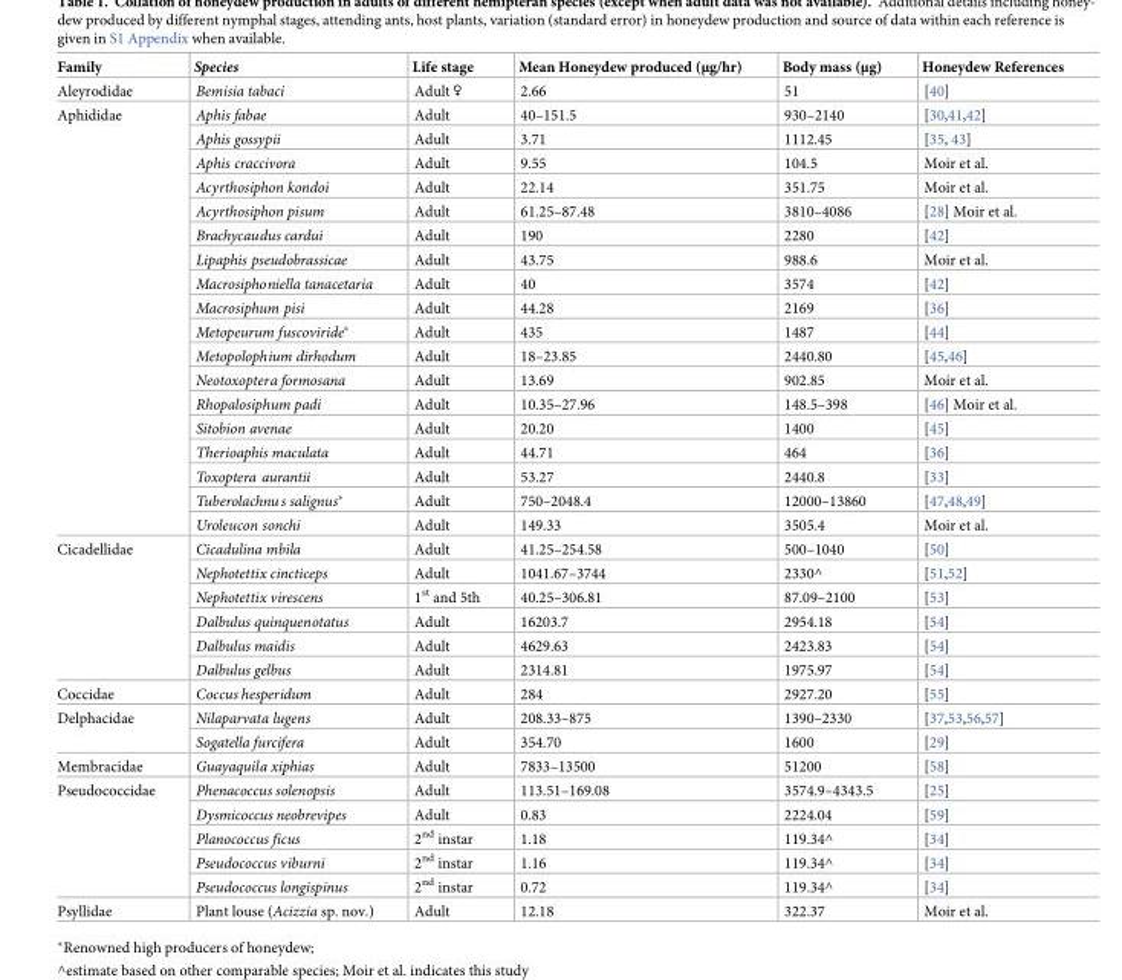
<table><thead><tr><td>Family</td><td>Species</td><td>Life stage</td><td>Mean Honeydew produced (μg/hr)</td><td>Body mass (μg)</td><td>Honeydew References</td></tr></thead><tbody><tr><td>Aleyrodidae</td><td>Bemisia tabaci</td><td>Adult ♀</td><td>2.66</td><td>51</td><td>[40]</td></tr><tr><td rowspan="18">Aphididae</td><td>Aphis fabae</td><td>Adult</td><td>40–151.5</td><td>930–2140</td><td>[30,41,42]</td></tr><tr><td>Aphis gossypii</td><td>Adult</td><td>3.71</td><td>1112.45</td><td>[35, 43]</td></tr><tr><td>Aphis craccivora</td><td>Adult</td><td>9.55</td><td>104.5</td><td>Moir et al.</td></tr><tr><td>Acyrthosiphon kondoi</td><td>Adult</td><td>22.14</td><td>351.75</td><td>Moir et al.</td></tr><tr><td>Acyrthosiphon pisum</td><td>Adult</td><td>61.25–87.48</td><td>3810–4086</td><td>[28] Moir et al.</td></tr><tr><td>Brachycaudus cardui</td><td>Adult</td><td>190</td><td>2280</td><td>[42]</td></tr><tr><td>Lipaphis pseudobrassicae</td><td>Adult</td><td>43.75</td><td>988.6</td><td>Moir et al.</td></tr><tr><td>Macrosiphoniella tanacetaria</td><td>Adult</td><td>40</td><td>3574</td><td>[42]</td></tr><tr><td>Macrosiphum pisi</td><td>Adult</td><td>44.28</td><td>2169</td><td>[36]</td></tr><tr><td>Metopeurum fuscoviride*</td><td>Adult</td><td>435</td><td>1487</td><td>[44]</td></tr><tr><td>Metopolophium dirhodum</td><td>Adult</td><td>18–23.85</td><td>2440.80</td><td>[45,46]</td></tr><tr><td>Neotoxoptera formosana</td><td>Adult</td><td>13.69</td><td>902.85</td><td>Moir et al.</td></tr><tr><td>Rhopalosiphum padi</td><td>Adult</td><td>10.35–27.96</td><td>148.5–398</td><td>[46] Moir et al.</td></tr><tr><td>Sitobion avenae</td><td>Adult</td><td>20.20</td><td>1400</td><td>[45]</td></tr><tr><td>Therioaphis maculata</td><td>Adult</td><td>44.71</td><td>464</td><td>[36]</td></tr><tr><td>Toxoptera aurantii</td><td>Adult</td><td>53.27</td><td>2440.8</td><td>[33]</td></tr><tr><td>Tuberolachnus salignus*</td><td>Adult</td><td>750–2048.4</td><td>12000–13860</td><td>[47,48,49]</td></tr><tr><td>Uroleucon sonchi</td><td>Adult</td><td>149.33</td><td>3505.4</td><td>Moir et al.</td></tr><tr><td rowspan="6">Cicadellidae</td><td>Cicadulina mbila</td><td>Adult</td><td>41.25–254.58</td><td>500–1040</td><td>[50]</td></tr><tr><td>Nephotettix cincticeps</td><td>Adult</td><td>1041.67–3744</td><td>2330^</td><td>[51,52]</td></tr><tr><td>Nephotettix virescens</td><td>1<sup>st</sup> and 5th</td><td>40.25–306.81</td><td>87.09–2100</td><td>[53]</td></tr><tr><td>Dalbulus quinquenotatus</td><td>Adult</td><td>16203.7</td><td>2954.18</td><td>[54]</td></tr><tr><td>Dalbulus maidis</td><td>Adult</td><td>4629.63</td><td>2423.83</td><td>[54]</td></tr><tr><td>Dalbulus gelbus</td><td>Adult</td><td>2314.81</td><td>1975.97</td><td>[54]</td></tr><tr><td>Coccidae</td><td>Coccus hesperidum</td><td>Adult</td><td>284</td><td>2927.20</td><td>[55]</td></tr><tr><td rowspan="2">Delphacidae</td><td>Nilaparvata lugens</td><td>Adult</td><td>208.33–875</td><td>1390–2330</td><td>[37,53,56,57]</td></tr><tr><td>Sogatella furcifera</td><td>Adult</td><td>354.70</td><td>1600</td><td>[29]</td></tr><tr><td>Membracidae</td><td>Guayaquila xiphias</td><td>Adult</td><td>7833–13500</td><td>51200</td><td>[58]</td></tr><tr><td rowspan="5">Pseudococcidae</td><td>Phenacoccus solenopsis</td><td>Adult</td><td>113.51–169.08</td><td>3574.9–4343.5</td><td>[25]</td></tr><tr><td>Dysmicoccus neobrevipes</td><td>Adult</td><td>0.83</td><td>2224.04</td><td>[59]</td></tr><tr><td>Planococcus ficus</td><td>2<sup>nd</sup> instar</td><td>1.18</td><td>119.34^</td><td>[34]</td></tr><tr><td>Pseudococcus viburni</td><td>2<sup>nd</sup> instar</td><td>1.16</td><td>119.34^</td><td>[34]</td></tr><tr><td>Pseudococcus longispinus</td><td>2<sup>nd</sup> instar</td><td>0.72</td><td>119.34^</td><td>[34]</td></tr><tr><td>Psyllidae</td><td>Plant louse (Acizzia sp. nov.)</td><td>Adult</td><td>12.18</td><td>322.37</td><td>Moir et al.</td></tr></tbody></table>